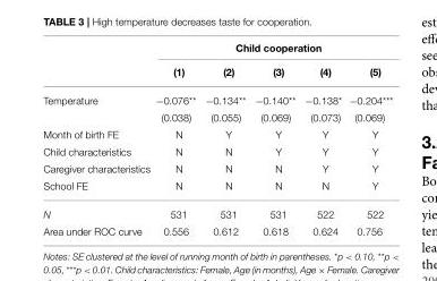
<table><thead><tr><td rowspan="2"></td><td colspan="5">Child cooperation</td></tr><tr><td>(1)</td><td>(2)</td><td>(3)</td><td>(4)</td><td>(5)</td></tr></thead><tbody><tr><td rowspan="2">Temperature</td><td>−0.076**</td><td>−0.134**</td><td>−0.140**</td><td>−0.138*</td><td>−0.204***</td></tr><tr><td>(0.038)</td><td>(0.055)</td><td>(0.069)</td><td>(0.073)</td><td>(0.069)</td></tr><tr><td>Month of birth FE</td><td>N</td><td>Y</td><td>Y</td><td>Y</td><td>Y</td></tr><tr><td>Child characteristics</td><td>N</td><td>N</td><td>Y</td><td>Y</td><td>Y</td></tr><tr><td>Caregiver characteristics</td><td>N</td><td>N</td><td>N</td><td>Y</td><td>Y</td></tr><tr><td>School FE</td><td>N</td><td>N</td><td>N</td><td>N</td><td>Y</td></tr><tr><td>N</td><td>531</td><td>531</td><td>531</td><td>522</td><td>522</td></tr><tr><td>Area under ROC curve</td><td>0.556</td><td>0.612</td><td>0.618</td><td>0.624</td><td>0.756</td></tr></tbody></table>